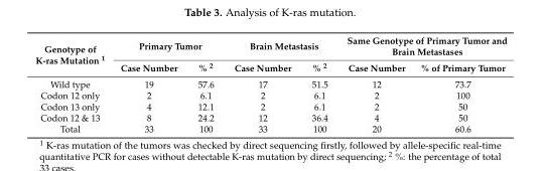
<table><thead><tr><td rowspan="2">Genotype of K-ras Mutation <sup>1</sup></td><td colspan="2">Primary Tumor</td><td colspan="2">Brain Metastasis</td><td colspan="2">Same Genotype of Primary Tumor and Brain Metastases</td></tr><tr><td>Case Number</td><td>% <sup>2</sup></td><td>Case Number</td><td>% <sup>2</sup></td><td>Case Number</td><td>% of Primary Tumor</td></tr></thead><tbody><tr><td>Wild type</td><td>19</td><td>57.6</td><td>17</td><td>51.5</td><td>12</td><td>73.7</td></tr><tr><td>Codon 12 only</td><td>2</td><td>6.1</td><td>2</td><td>6.1</td><td>2</td><td>100</td></tr><tr><td>Codon 13 only</td><td>4</td><td>12.1</td><td>2</td><td>6.1</td><td>2</td><td>50</td></tr><tr><td>Codon 12 &amp; 13</td><td>8</td><td>24.2</td><td>12</td><td>36.4</td><td>4</td><td>50</td></tr><tr><td>Total</td><td>33</td><td>100</td><td>33</td><td>100</td><td>20</td><td>60.6</td></tr></tbody></table>